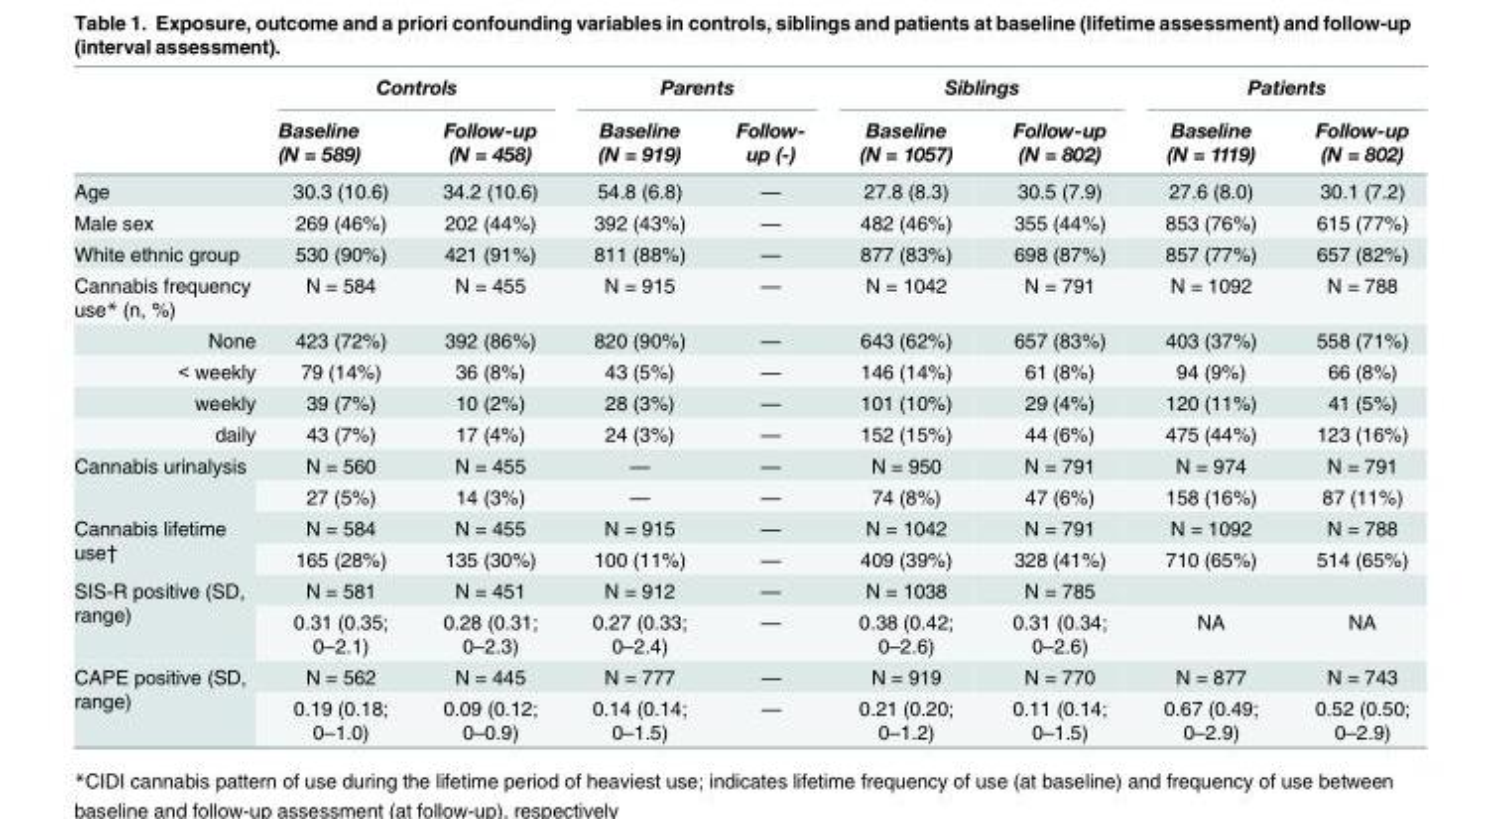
<table><thead><tr><td rowspan="2"></td><td colspan="2">Controls</td><td colspan="2">Parents</td><td colspan="2">Siblings</td><td colspan="2">Patients</td></tr><tr><td>Baseline (N = 589)</td><td>Follow-up (N = 458)</td><td>Baseline (N = 919)</td><td>Follow- up (-)</td><td>Baseline (N = 1057)</td><td>Follow-up (N = 802)</td><td>Baseline (N = 1119)</td><td>Follow-up (N = 802)</td></tr></thead><tbody><tr><td>Age</td><td>30.3 (10.6)</td><td>34.2 (10.6)</td><td>54.8 (6.8)</td><td>—</td><td>27.8 (8.3)</td><td>30.5 (7.9)</td><td>27.6 (8.0)</td><td>30.1 (7.2)</td></tr><tr><td>Male sex</td><td>269 (46%)</td><td>202 (44%)</td><td>392 (43%)</td><td>—</td><td>482 (46%)</td><td>355 (44%)</td><td>853 (76%)</td><td>615 (77%)</td></tr><tr><td>White ethnic group</td><td>530 (90%)</td><td>421 (91%)</td><td>811 (88%)</td><td>—</td><td>877 (83%)</td><td>698 (87%)</td><td>857 (77%)</td><td>657 (82%)</td></tr><tr><td>Cannabis frequency use* (n, %)</td><td>N = 584</td><td>N = 455</td><td>N = 915</td><td>—</td><td>N = 1042</td><td>N = 791</td><td>N = 1092</td><td>N = 788</td></tr><tr><td>None</td><td>423 (72%)</td><td>392 (86%)</td><td>820 (90%)</td><td>—</td><td>643 (62%)</td><td>657 (83%)</td><td>403 (37%)</td><td>558 (71%)</td></tr><tr><td>&lt; weekly</td><td>79 (14%)</td><td>36 (8%)</td><td>43 (5%)</td><td>—</td><td>146 (14%)</td><td>61 (8%)</td><td>94 (9%)</td><td>66 (8%)</td></tr><tr><td>weekly</td><td>39 (7%)</td><td>10 (2%)</td><td>28 (3%)</td><td>—</td><td>101 (10%)</td><td>29 (4%)</td><td>120 (11%)</td><td>41 (5%)</td></tr><tr><td>daily</td><td>43 (7%)</td><td>17 (4%)</td><td>24 (3%)</td><td>—</td><td>152 (15%)</td><td>44 (6%)</td><td>475 (44%)</td><td>123 (16%)</td></tr><tr><td rowspan="2">Cannabis urinalysis</td><td>N = 560</td><td>N = 455</td><td>—</td><td>—</td><td>N = 950</td><td>N = 791</td><td>N = 974</td><td>N = 791</td></tr><tr><td>27 (5%)</td><td>14 (3%)</td><td>—</td><td>—</td><td>74 (8%)</td><td>47 (6%)</td><td>158 (16%)</td><td>87 (11%)</td></tr><tr><td rowspan="2">Cannabis lifetime use†</td><td>N = 584</td><td>N = 455</td><td>N = 915</td><td>—</td><td>N = 1042</td><td>N = 791</td><td>N = 1092</td><td>N = 788</td></tr><tr><td>165 (28%)</td><td>135 (30%)</td><td>100 (11%)</td><td>—</td><td>409 (39%)</td><td>328 (41%)</td><td>710 (65%)</td><td>514 (65%)</td></tr><tr><td rowspan="2">SIS-R positive (SD, range)</td><td>N = 581</td><td>N = 451</td><td>N = 912</td><td>—</td><td>N = 1038</td><td>N = 785</td><td></td><td></td></tr><tr><td>0.31 (0.35; 0–2.1)</td><td>0.28 (0.31; 0–2.3)</td><td>0.27 (0.33; 0–2.4)</td><td>—</td><td>0.38 (0.42; 0–2.6)</td><td>0.31 (0.34; 0–2.6)</td><td>NA</td><td>NA</td></tr><tr><td rowspan="2">CAPE positive (SD, range)</td><td>N = 562</td><td>N = 445</td><td>N = 777</td><td>—</td><td>N = 919</td><td>N = 770</td><td>N = 877</td><td>N = 743</td></tr><tr><td>0.19 (0.18; 0–1.0)</td><td>0.09 (0.12; 0–0.9)</td><td>0.14 (0.14; 0–1.5)</td><td>—</td><td>0.21 (0.20; 0–1.2)</td><td>0.11 (0.14; 0–1.5)</td><td>0.67 (0.49; 0–2.9)</td><td>0.52 (0.50; 0–2.9)</td></tr></tbody></table>